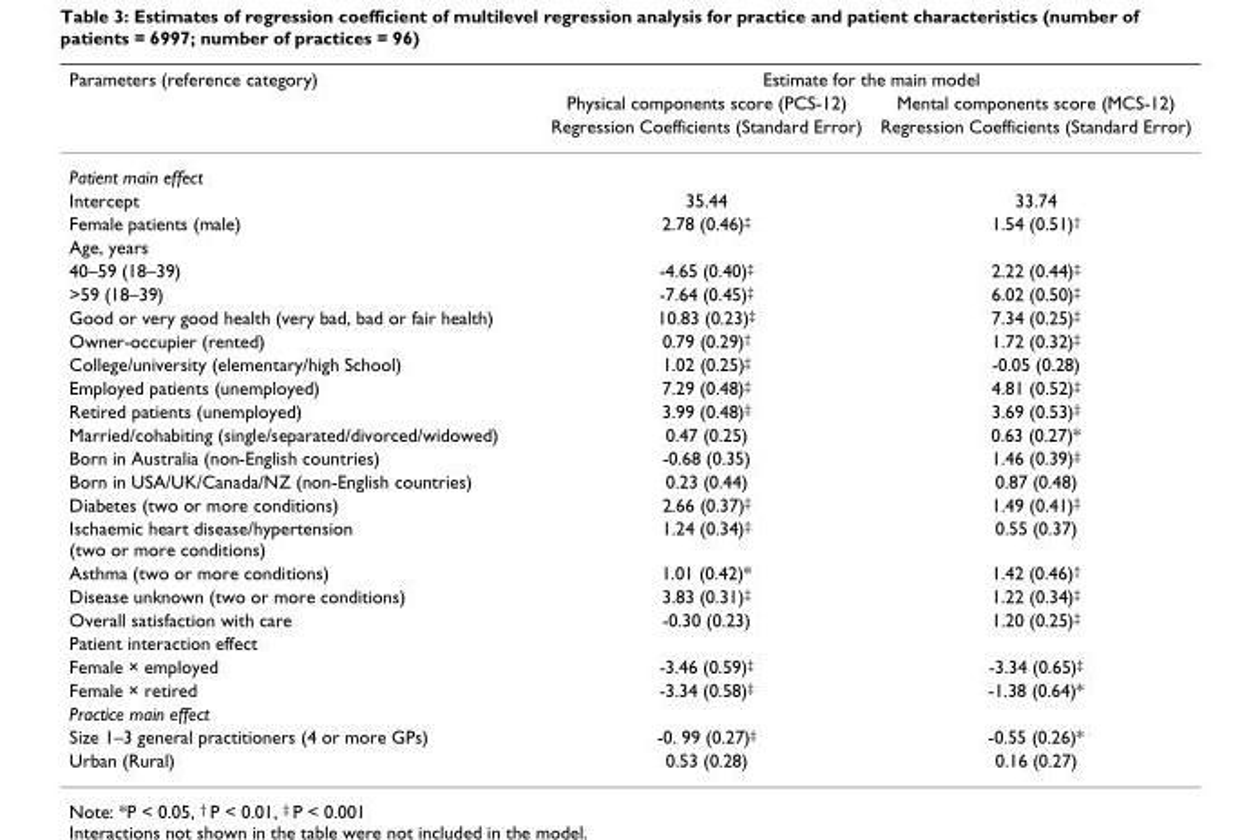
<table><thead><tr><td rowspan="3">Parameters (reference category)</td><td colspan="2">Estimate for the main model</td></tr><tr><td rowspan="2">Physical components score (PCS-12) Regression Coefficients (Standard Error)</td><td rowspan="2">Mental components score (MCS-12) Regression Coefficients (Standard Error)</td></tr><tr></tr></thead><tbody><tr><td colspan="3">Patient main effect</td></tr><tr><td>Intercept</td><td>35.44</td><td>33.74</td></tr><tr><td>Female patients (male)</td><td>2.78 (0.46)<sup>‡</sup></td><td>1.54 (0.51)<sup>†</sup></td></tr><tr><td colspan="3">Age, years</td></tr><tr><td>40–59 (18–39)</td><td>-4.65 (0.40)<sup>‡</sup></td><td>2.22 (0.44)<sup>‡</sup></td></tr><tr><td>&gt;59 (18–39)</td><td>-7.64 (0.45)<sup>‡</sup></td><td>6.02 (0.50)<sup>‡</sup></td></tr><tr><td>Good or very good health (very bad, bad or fair health)</td><td>10.83 (0.23)<sup>‡</sup></td><td>7.34 (0.25)<sup>‡</sup></td></tr><tr><td>Owner-occupier (rented)</td><td>0.79 (0.29)<sup>†</sup></td><td>1.72 (0.32)<sup>‡</sup></td></tr><tr><td>College/university (elementary/high School)</td><td>1.02 (0.25)<sup>‡</sup></td><td>-0.05 (0.28)</td></tr><tr><td>Employed patients (unemployed)</td><td>7.29 (0.48)<sup>‡</sup></td><td>4.81 (0.52)<sup>‡</sup></td></tr><tr><td>Retired patients (unemployed)</td><td>3.99 (0.48)<sup>‡</sup></td><td>3.69 (0.53)<sup>‡</sup></td></tr><tr><td>Married/cohabiting (single/separated/divorced/widowed)</td><td>0.47 (0.25)</td><td>0.63 (0.27)*</td></tr><tr><td>Born in Australia (non-English countries)</td><td>-0.68 (0.35)</td><td>1.46 (0.39)<sup>‡</sup></td></tr><tr><td>Born in USA/UK/Canada/NZ (non-English countries)</td><td>0.23 (0.44)</td><td>0.87 (0.48)</td></tr><tr><td>Diabetes (two or more conditions)</td><td>2.66 (0.37)<sup>‡</sup></td><td>1.49 (0.41)<sup>‡</sup></td></tr><tr><td>Ischaemic heart disease/hypertension (two or more conditions)</td><td>1.24 (0.34)<sup>‡</sup></td><td>0.55 (0.37)</td></tr><tr><td>Asthma (two or more conditions)</td><td>1.01 (0.42)*</td><td>1.42 (0.46)<sup>†</sup></td></tr><tr><td>Disease unknown (two or more conditions)</td><td>3.83 (0.31)<sup>‡</sup></td><td>1.22 (0.34)<sup>‡</sup></td></tr><tr><td>Overall satisfaction with care</td><td>-0.30 (0.23)</td><td>1.20 (0.25)<sup>‡</sup></td></tr><tr><td colspan="3">Patient interaction effect</td></tr><tr><td>Female × employed</td><td>-3.46 (0.59)<sup>‡</sup></td><td>-3.34 (0.65)<sup>‡</sup></td></tr><tr><td>Female × retired</td><td>-3.34 (0.58)<sup>‡</sup></td><td>-1.38 (0.64)*</td></tr><tr><td colspan="3">Practice main effect</td></tr><tr><td>Size 1–3 general practitioners (4 or more GPs)</td><td>-0. 99 (0.27)<sup>‡</sup></td><td>-0.55 (0.26)*</td></tr><tr><td>Urban (Rural)</td><td>0.53 (0.28)</td><td>0.16 (0.27)</td></tr></tbody></table>